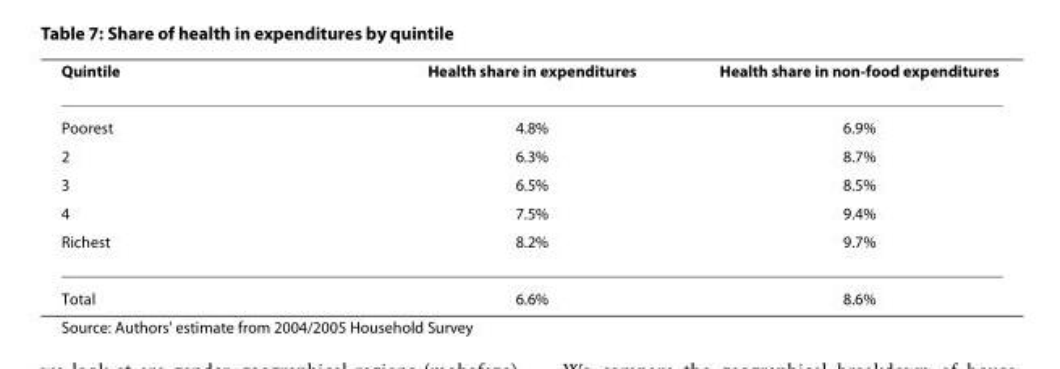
<table><thead><tr><td>Quintile</td><td>Health share in expenditures</td><td>Health share in non-food expenditures</td></tr></thead><tbody><tr><td>Poorest</td><td>4.8%</td><td>6.9%</td></tr><tr><td>2</td><td>6.3%</td><td>8.7%</td></tr><tr><td>3</td><td>6.5%</td><td>8.5%</td></tr><tr><td>4</td><td>7.5%</td><td>9.4%</td></tr><tr><td>Richest</td><td>8.2%</td><td>9.7%</td></tr><tr><td>Total</td><td>6.6%</td><td>8.6%</td></tr></tbody></table>